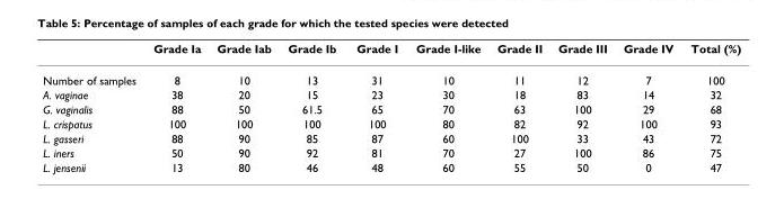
<table><thead><tr><td></td><td>Grade Ia</td><td>Grade Iab</td><td>Grade Ib</td><td>Grade I</td><td>Grade I-like</td><td>Grade II</td><td>Grade III</td><td>Grade IV</td><td>Total (%)</td></tr></thead><tbody><tr><td>Number of samples</td><td>8</td><td>10</td><td>13</td><td>31</td><td>10</td><td>11</td><td>12</td><td>7</td><td>100</td></tr><tr><td>A. vaginae</td><td>38</td><td>20</td><td>15</td><td>23</td><td>30</td><td>18</td><td>83</td><td>14</td><td>32</td></tr><tr><td>G. vaginalis</td><td>88</td><td>50</td><td>61.5</td><td>65</td><td>70</td><td>63</td><td>100</td><td>29</td><td>68</td></tr><tr><td>L. crispatus</td><td>100</td><td>100</td><td>100</td><td>100</td><td>80</td><td>82</td><td>92</td><td>100</td><td>93</td></tr><tr><td>L. gasseri</td><td>88</td><td>90</td><td>85</td><td>87</td><td>60</td><td>100</td><td>33</td><td>43</td><td>72</td></tr><tr><td>L. iners</td><td>50</td><td>90</td><td>92</td><td>81</td><td>70</td><td>27</td><td>100</td><td>86</td><td>75</td></tr><tr><td>L. jensenii</td><td>13</td><td>80</td><td>46</td><td>48</td><td>60</td><td>55</td><td>50</td><td>0</td><td>47</td></tr></tbody></table>